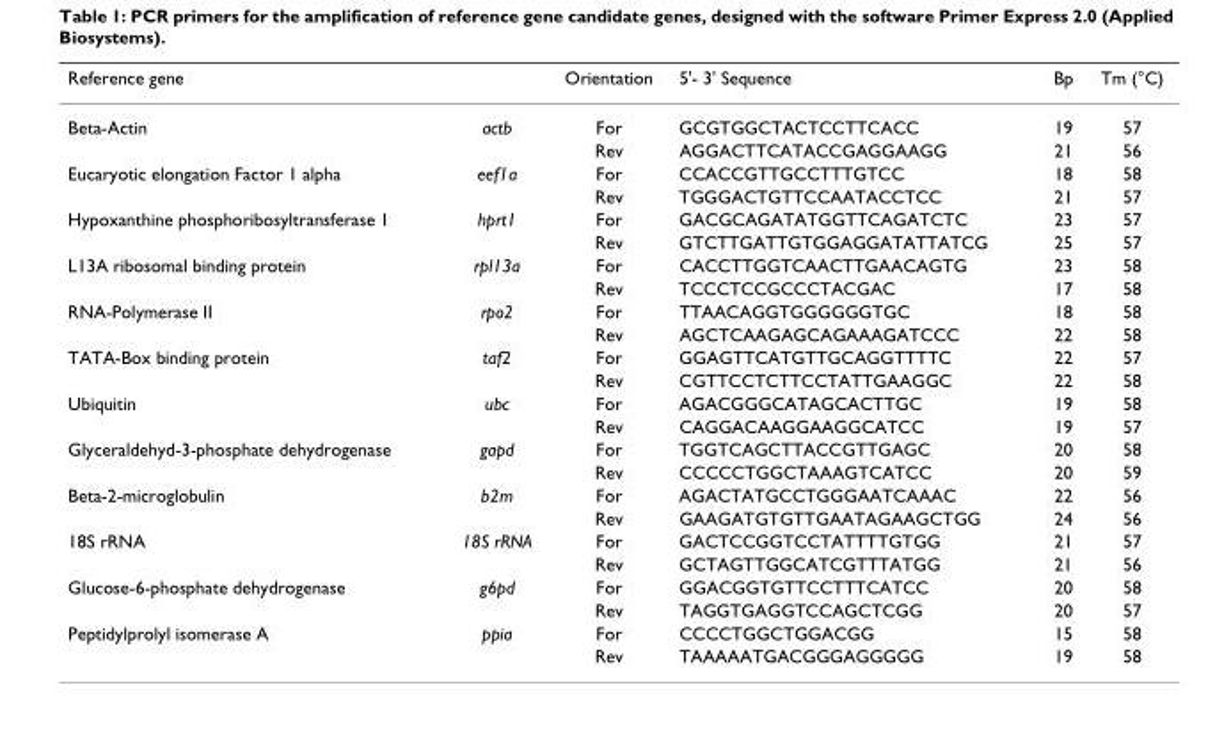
<table><thead><tr><td>Reference gene</td><td></td><td>Orientation</td><td>5&#x27;- 3&#x27; Sequence</td><td>Bp</td><td>Tm (°C)</td></tr></thead><tbody><tr><td rowspan="2">Beta-Actin</td><td>actb</td><td>For</td><td>GCGTGGCTACTCCTTCACC</td><td>19</td><td>57</td></tr><tr><td></td><td>Rev</td><td>AGGACTTCATACCGAGGAAGG</td><td>21</td><td>56</td></tr><tr><td rowspan="2">Eucaryotic elongation Factor 1 alpha</td><td>eef1a</td><td>For</td><td>CCACCGTTGCCTTTGTCC</td><td>18</td><td>58</td></tr><tr><td></td><td>Rev</td><td>TGGGACTGTTCCAATACCTCC</td><td>21</td><td>57</td></tr><tr><td rowspan="2">Hypoxanthine phosphoribosyltransferase 1</td><td>hprt1</td><td>For</td><td>GACGCAGATATGGTTCAGATCTC</td><td>23</td><td>57</td></tr><tr><td></td><td>Rev</td><td>GTCTTGATTGTGGAGGATATTATCG</td><td>25</td><td>57</td></tr><tr><td rowspan="2">L13A ribosomal binding protein</td><td>rpl13a</td><td>For</td><td>CACCTTGGTCAACTTGAACAGTG</td><td>23</td><td>58</td></tr><tr><td></td><td>Rev</td><td>TCCCTCCGCCCTACGAC</td><td>17</td><td>58</td></tr><tr><td rowspan="2">RNA-Polymerase II</td><td>rpo2</td><td>For</td><td>TTAACAGGTGGGGGGTGC</td><td>18</td><td>58</td></tr><tr><td></td><td>Rev</td><td>AGCTCAAGAGCAGAAAGATCCC</td><td>22</td><td>58</td></tr><tr><td rowspan="2">TATA-Box binding protein</td><td>taf2</td><td>For</td><td>GGAGTTCATGTTGCAGGTTTTC</td><td>22</td><td>57</td></tr><tr><td></td><td>Rev</td><td>CGTTCCTCTTCCTATTGAAGGC</td><td>22</td><td>58</td></tr><tr><td rowspan="2">Ubiquitin</td><td>ubc</td><td>For</td><td>AGACGGGCATAGCACTTGC</td><td>19</td><td>58</td></tr><tr><td></td><td>Rev</td><td>CAGGACAAGGAAGGCATCC</td><td>19</td><td>57</td></tr><tr><td rowspan="2">Glyceraldehyd-3-phosphate dehydrogenase</td><td>gapd</td><td>For</td><td>TGGTCAGCTTACCGTTGAGC</td><td>20</td><td>58</td></tr><tr><td></td><td>Rev</td><td>CCCCCTGGCTAAAGTCATCC</td><td>20</td><td>59</td></tr><tr><td rowspan="2">Beta-2-microglobulin</td><td>b2m</td><td>For</td><td>AGACTATGCCTGGGAATCAAAC</td><td>22</td><td>56</td></tr><tr><td></td><td>Rev</td><td>GAAGATGTGTTGAATAGAAGCTGG</td><td>24</td><td>56</td></tr><tr><td rowspan="2">18S rRNA</td><td>18S rRNA</td><td>For</td><td>GACTCCGGTCCTATTTTGTGG</td><td>21</td><td>57</td></tr><tr><td></td><td>Rev</td><td>GCTAGTTGGCATCGTTTATGG</td><td>21</td><td>56</td></tr><tr><td rowspan="2">Glucose-6-phosphate dehydrogenase</td><td>g6pd</td><td>For</td><td>GGACGGTGTTCCTTTCATCC</td><td>20</td><td>58</td></tr><tr><td></td><td>Rev</td><td>TAGGTGAGGTCCAGCTCGG</td><td>20</td><td>57</td></tr><tr><td rowspan="2">Peptidylprolyl isomerase A</td><td>ppia</td><td>For</td><td>CCCCTGGCTGGACGG</td><td>15</td><td>58</td></tr><tr><td></td><td>Rev</td><td>TAAAAATGACGGGAGGGGG</td><td>19</td><td>58</td></tr></tbody></table>